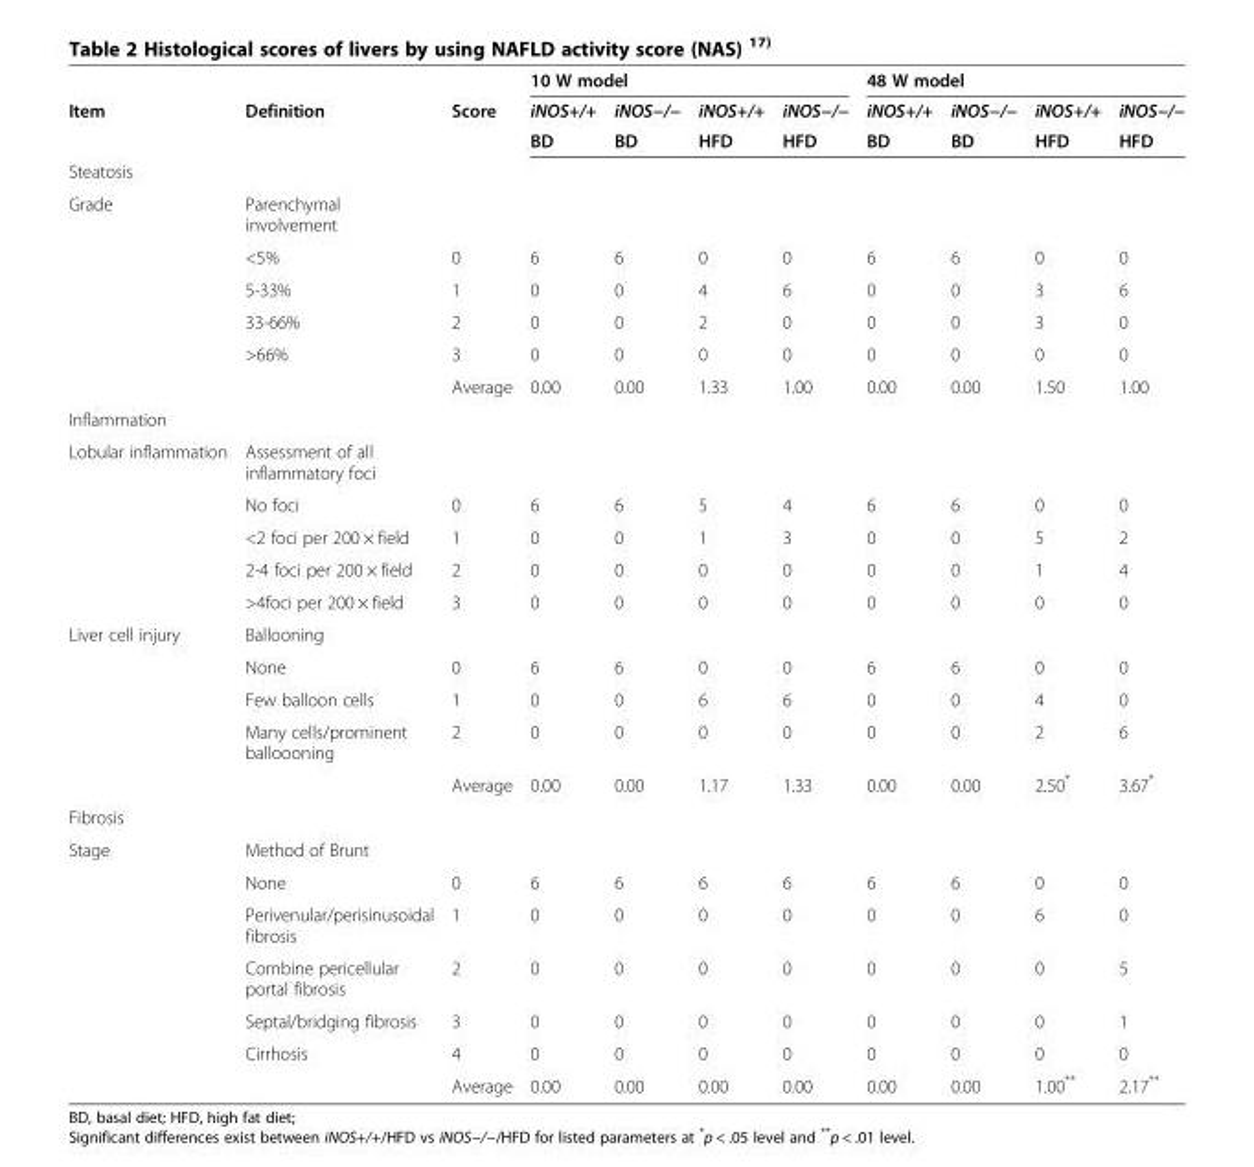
<table><thead><tr><td rowspan="3">Item</td><td rowspan="3">Definition</td><td rowspan="3">Score</td><td colspan="4">10 W model</td><td colspan="4">48 W model</td></tr><tr><td rowspan="2">iNOS+/+ BD</td><td rowspan="2">iNOS−/− BD</td><td rowspan="2">iNOS+/+ HFD</td><td rowspan="2">iNOS−/− HFD</td><td rowspan="2">iNOS+/+ BD</td><td rowspan="2">iNOS−/− BD</td><td rowspan="2">iNOS+/+ HFD</td><td rowspan="2">iNOS−/− HFD</td></tr><tr></tr></thead><tbody><tr><td colspan="11">Steatosis</td></tr><tr><td rowspan="6">Grade</td><td>Parenchymal involvement</td><td></td><td></td><td></td><td></td><td></td><td></td><td></td><td></td><td></td></tr><tr><td>&lt;5%</td><td>0</td><td>6</td><td>6</td><td>0</td><td>0</td><td>6</td><td>6</td><td>0</td><td>0</td></tr><tr><td>5-33%</td><td>1</td><td>0</td><td>0</td><td>4</td><td>6</td><td>0</td><td>0</td><td>3</td><td>6</td></tr><tr><td>33-66%</td><td>2</td><td>0</td><td>0</td><td>2</td><td>0</td><td>0</td><td>0</td><td>3</td><td>0</td></tr><tr><td>&gt;66%</td><td>3</td><td>0</td><td>0</td><td>0</td><td>0</td><td>0</td><td>0</td><td>0</td><td>0</td></tr><tr><td></td><td>Average</td><td>0.00</td><td>0.00</td><td>1.33</td><td>1.00</td><td>0.00</td><td>0.00</td><td>1.50</td><td>1.00</td></tr><tr><td colspan="11">Inflammation</td></tr><tr><td rowspan="5">Lobular inflammation</td><td>Assessment of all inflammatory foci</td><td></td><td></td><td></td><td></td><td></td><td></td><td></td><td></td><td></td></tr><tr><td>No foci</td><td>0</td><td>6</td><td>6</td><td>5</td><td>4</td><td>6</td><td>6</td><td>0</td><td>0</td></tr><tr><td>&lt;2 foci per 200 × field</td><td>1</td><td>0</td><td>0</td><td>1</td><td>3</td><td>0</td><td>0</td><td>5</td><td>2</td></tr><tr><td>2-4 foci per 200 × field</td><td>2</td><td>0</td><td>0</td><td>0</td><td>0</td><td>0</td><td>0</td><td>1</td><td>4</td></tr><tr><td>&gt;4foci per 200 × field</td><td>3</td><td>0</td><td>0</td><td>0</td><td>0</td><td>0</td><td>0</td><td>0</td><td>0</td></tr><tr><td rowspan="5">Liver cell injury</td><td>Ballooning</td><td></td><td></td><td></td><td></td><td></td><td></td><td></td><td></td><td></td></tr><tr><td>None</td><td>0</td><td>6</td><td>6</td><td>0</td><td>0</td><td>6</td><td>6</td><td>0</td><td>0</td></tr><tr><td>Few balloon cells</td><td>1</td><td>0</td><td>0</td><td>6</td><td>6</td><td>0</td><td>0</td><td>4</td><td>0</td></tr><tr><td>Many cells/prominent balloooning</td><td>2</td><td>0</td><td>0</td><td>0</td><td>0</td><td>0</td><td>0</td><td>2</td><td>6</td></tr><tr><td></td><td>Average</td><td>0.00</td><td>0.00</td><td>1.17</td><td>1.33</td><td>0.00</td><td>0.00</td><td>2.50*</td><td>3.67*</td></tr><tr><td colspan="11">Fibrosis</td></tr><tr><td rowspan="7">Stage</td><td>Method of Brunt</td><td></td><td></td><td></td><td></td><td></td><td></td><td></td><td></td><td></td></tr><tr><td>None</td><td>0</td><td>6</td><td>6</td><td>6</td><td>6</td><td>6</td><td>6</td><td>0</td><td>0</td></tr><tr><td>Perivenular/perisinusoidal fibrosis</td><td>1</td><td>0</td><td>0</td><td>0</td><td>0</td><td>0</td><td>0</td><td>6</td><td>0</td></tr><tr><td>Combine pericellular portal fibrosis</td><td>2</td><td>0</td><td>0</td><td>0</td><td>0</td><td>0</td><td>0</td><td>0</td><td>5</td></tr><tr><td>Septal/bridging fibrosis</td><td>3</td><td>0</td><td>0</td><td>0</td><td>0</td><td>0</td><td>0</td><td>0</td><td>1</td></tr><tr><td>Cirrhosis</td><td>4</td><td>0</td><td>0</td><td>0</td><td>0</td><td>0</td><td>0</td><td>0</td><td>0</td></tr><tr><td></td><td>Average</td><td>0.00</td><td>0.00</td><td>0.00</td><td>0.00</td><td>0.00</td><td>0.00</td><td>1.00**</td><td>2.17**</td></tr></tbody></table>